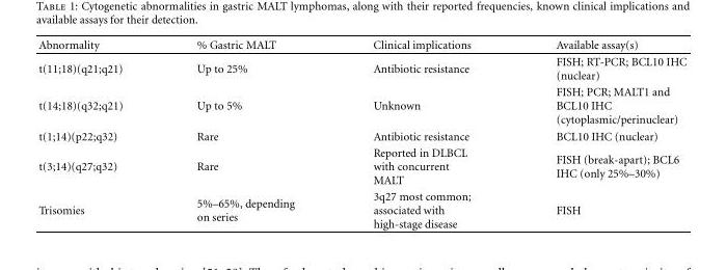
<table><thead><tr><td>Abnormality</td><td>% Gastric MALT</td><td>Clinical implications</td><td>Available assay(s)</td></tr></thead><tbody><tr><td>t(11;18)(q21;q21)</td><td>Up to 25%</td><td>Antibiotic resistance</td><td>FISH; RT-PCR; BCL10 IHC (nuclear)</td></tr><tr><td>t(14;18)(q32;q21)</td><td>Up to 5%</td><td>Unknown</td><td>FISH; PCR; MALT1 and BCL10 IHC (cytoplasmic/perinuclear)</td></tr><tr><td>t(1;14)(p22;q32)</td><td>Rare</td><td>Antibiotic resistance</td><td>BCL10 IHC (nuclear)</td></tr><tr><td>t(3;14)(q27;q32)</td><td>Rare</td><td>Reported in DLBCL with concurrent MALT</td><td>FISH (break-apart); BCL6 IHC (only 25%–30%)</td></tr><tr><td>Trisomies</td><td>5%–65%, depending on series</td><td>3q27 most common; associated with high-stage disease</td><td>FISH</td></tr></tbody></table>